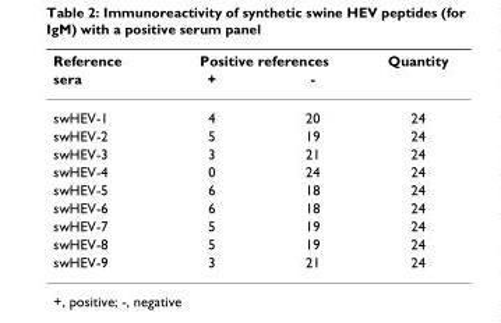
<table><thead><tr><td rowspan="2">Reference sera</td><td colspan="2">Positive references</td><td rowspan="2">Quantity</td></tr><tr><td>+</td><td>-</td></tr></thead><tbody><tr><td>swHEV-1</td><td>4</td><td>20</td><td>24</td></tr><tr><td>swHEV-2</td><td>5</td><td>19</td><td>24</td></tr><tr><td>swHEV-3</td><td>3</td><td>21</td><td>24</td></tr><tr><td>swHEV-4</td><td>0</td><td>24</td><td>24</td></tr><tr><td>swHEV-5</td><td>6</td><td>18</td><td>24</td></tr><tr><td>swHEV-6</td><td>6</td><td>18</td><td>24</td></tr><tr><td>swHEV-7</td><td>5</td><td>19</td><td>24</td></tr><tr><td>swHEV-8</td><td>5</td><td>19</td><td>24</td></tr><tr><td>swHEV-9</td><td>3</td><td>21</td><td>24</td></tr></tbody></table>